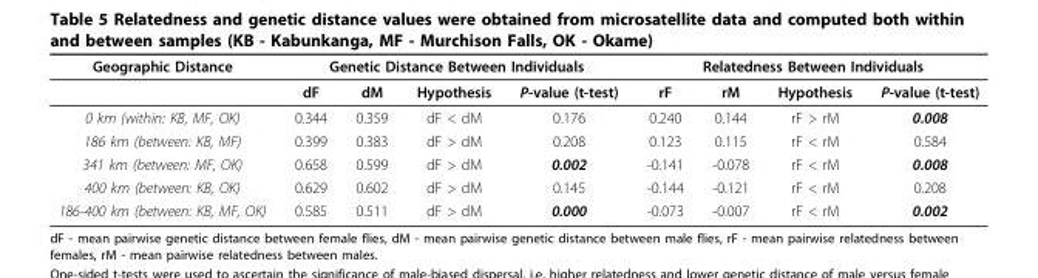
<table><thead><tr><td rowspan="2">Geographic Distance</td><td colspan="4">Genetic Distance Between Individuals</td><td colspan="4">Relatedness Between Individuals</td></tr><tr><td>dF</td><td>dM</td><td>Hypothesis</td><td>P-value (t-test)</td><td>rF</td><td>rM</td><td>Hypothesis</td><td>P-value (t-test)</td></tr></thead><tbody><tr><td>0 km (within: KB, MF, OK)</td><td>0.344</td><td>0.359</td><td>dF &lt; dM</td><td>0.176</td><td>0.240</td><td>0.144</td><td>rF &gt; rM</td><td>0.008</td></tr><tr><td>186 km (between: KB, MF)</td><td>0.399</td><td>0.383</td><td>dF &gt; dM</td><td>0.208</td><td>0.123</td><td>0.115</td><td>rF &lt; rM</td><td>0.584</td></tr><tr><td>341 km (between: MF, OK)</td><td>0.658</td><td>0.599</td><td>dF &gt; dM</td><td>0.002</td><td>-0.141</td><td>-0.078</td><td>rF &lt; rM</td><td>0.008</td></tr><tr><td>400 km (between: KB, OK)</td><td>0.629</td><td>0.602</td><td>dF &gt; dM</td><td>0.145</td><td>-0.144</td><td>-0.121</td><td>rF &lt; rM</td><td>0.208</td></tr><tr><td>186-400 km (between: KB, MF, OK)</td><td>0.585</td><td>0.511</td><td>dF &gt; dM</td><td>0.000</td><td>-0.073</td><td>-0.007</td><td>rF &lt; rM</td><td>0.002</td></tr></tbody></table>